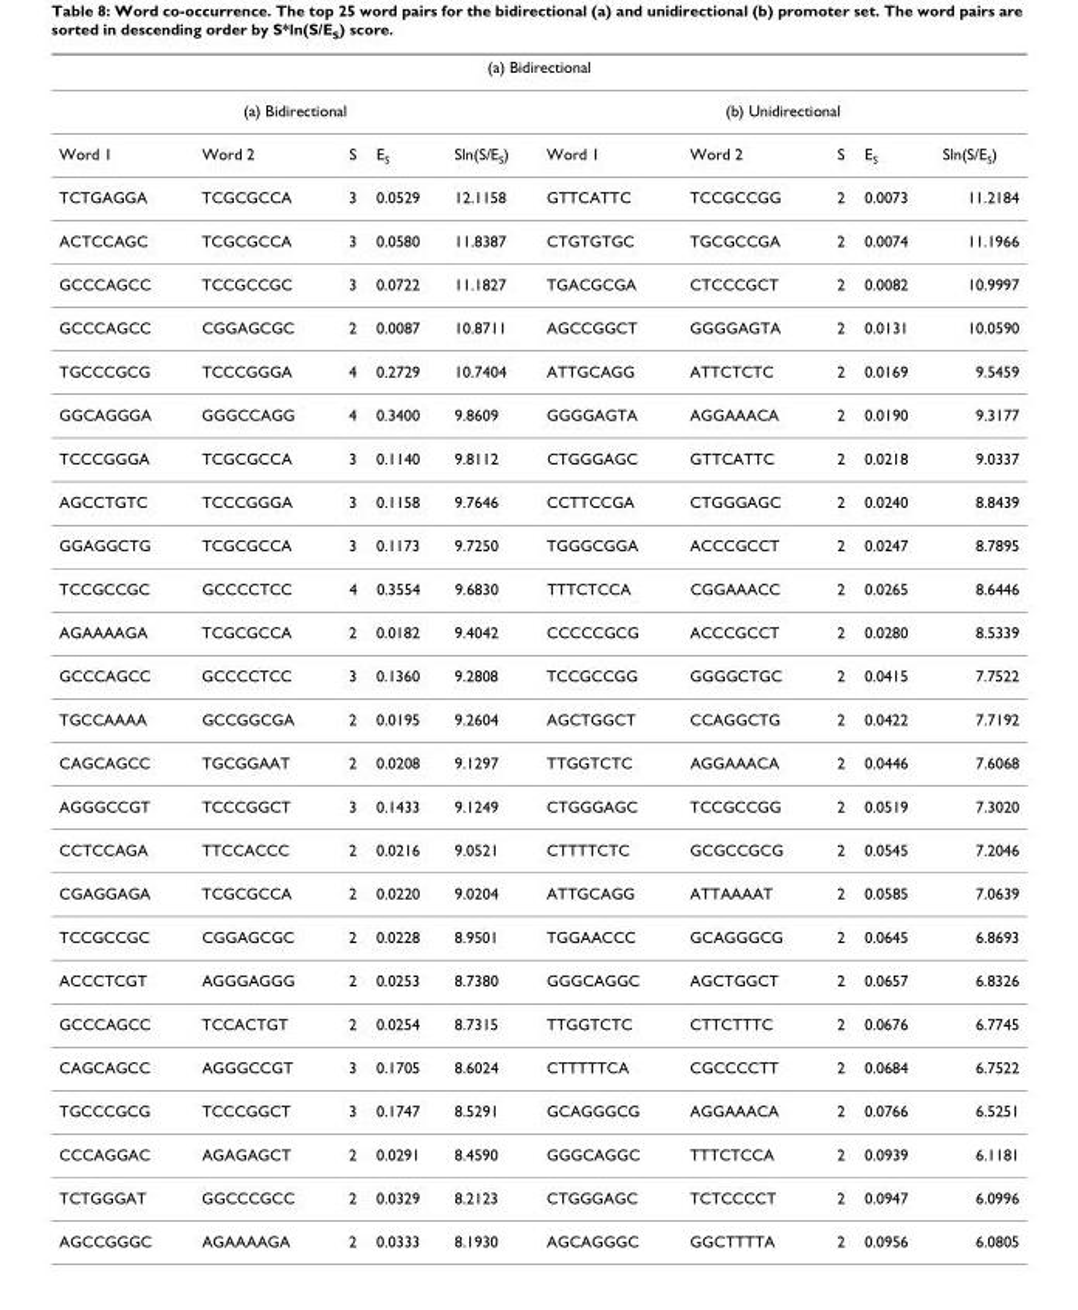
<table><thead><tr><td colspan="10">(a) Bidirectional</td></tr><tr><td colspan="5">(a) Bidirectional</td><td colspan="5">(b) Unidirectional</td></tr><tr><td>Word 1</td><td>Word 2</td><td>S</td><td>E<sub>S</sub></td><td>Sln(S/E<sub>S</sub>)</td><td>Word 1</td><td>Word 2</td><td>S</td><td>E<sub>S</sub></td><td>Sln(S/E<sub>S</sub>)</td></tr></thead><tbody><tr><td>TCTGAGGA</td><td>TCGCGCCA</td><td>3</td><td>0.0529</td><td>12.1158</td><td>GTTCATTC</td><td>TCCGCCGG</td><td>2</td><td>0.0073</td><td>11.2184</td></tr><tr><td>ACTCCAGC</td><td>TCGCGCCA</td><td>3</td><td>0.0580</td><td>11.8387</td><td>CTGTGTGC</td><td>TGCGCCGA</td><td>2</td><td>0.0074</td><td>11.1966</td></tr><tr><td>GCCCAGCC</td><td>TCCGCCGC</td><td>3</td><td>0.0722</td><td>11.1827</td><td>TGACGCGA</td><td>CTCCCGCT</td><td>2</td><td>0.0082</td><td>10.9997</td></tr><tr><td>GCCCAGCC</td><td>CGGAGCGC</td><td>2</td><td>0.0087</td><td>10.8711</td><td>AGCCGGCT</td><td>GGGGAGTA</td><td>2</td><td>0.0131</td><td>10.0590</td></tr><tr><td>TGCCCGCG</td><td>TCCCGGGA</td><td>4</td><td>0.2729</td><td>10.7404</td><td>ATTGCAGG</td><td>ATTCTCTC</td><td>2</td><td>0.0169</td><td>9.5459</td></tr><tr><td>GGCAGGGA</td><td>GGGCCAGG</td><td>4</td><td>0.3400</td><td>9.8609</td><td>GGGGAGTA</td><td>AGGAAACA</td><td>2</td><td>0.0190</td><td>9.3177</td></tr><tr><td>TCCCGGGA</td><td>TCGCGCCA</td><td>3</td><td>0.1140</td><td>9.8112</td><td>CTGGGAGC</td><td>GTTCATTC</td><td>2</td><td>0.0218</td><td>9.0337</td></tr><tr><td>AGCCTGTC</td><td>TCCCGGGA</td><td>3</td><td>0.1158</td><td>9.7646</td><td>CCTTCCGA</td><td>CTGGGAGC</td><td>2</td><td>0.0240</td><td>8.8439</td></tr><tr><td>GGAGGCTG</td><td>TCGCGCCA</td><td>3</td><td>0.1173</td><td>9.7250</td><td>TGGGCGGA</td><td>ACCCGCCT</td><td>2</td><td>0.0247</td><td>8.7895</td></tr><tr><td>TCCGCCGC</td><td>GCCCCTCC</td><td>4</td><td>0.3554</td><td>9.6830</td><td>TTTCTCCA</td><td>CGGAAACC</td><td>2</td><td>0.0265</td><td>8.6446</td></tr><tr><td>AGAAAAGA</td><td>TCGCGCCA</td><td>2</td><td>0.0182</td><td>9.4042</td><td>CCCCCGCG</td><td>ACCCGCCT</td><td>2</td><td>0.0280</td><td>8.5339</td></tr><tr><td>GCCCAGCC</td><td>GCCCCTCC</td><td>3</td><td>0.1360</td><td>9.2808</td><td>TCCGCCGG</td><td>GGGGCTGC</td><td>2</td><td>0.0415</td><td>7.7522</td></tr><tr><td>TGCCAAAA</td><td>GCCGGCGA</td><td>2</td><td>0.0195</td><td>9.2604</td><td>AGCTGGCT</td><td>CCAGGCTG</td><td>2</td><td>0.0422</td><td>7.7192</td></tr><tr><td>CAGCAGCC</td><td>TGCGGAAT</td><td>2</td><td>0.0208</td><td>9.1297</td><td>TTGGTCTC</td><td>AGGAAACA</td><td>2</td><td>0.0446</td><td>7.6068</td></tr><tr><td>AGGGCCGT</td><td>TCCCGGCT</td><td>3</td><td>0.1433</td><td>9.1249</td><td>CTGGGAGC</td><td>TCCGCCGG</td><td>2</td><td>0.0519</td><td>7.3020</td></tr><tr><td>CCTCCAGA</td><td>TTCCACCC</td><td>2</td><td>0.0216</td><td>9.0521</td><td>CTTTTCTC</td><td>GCGCCGCG</td><td>2</td><td>0.0545</td><td>7.2046</td></tr><tr><td>CGAGGAGA</td><td>TCGCGCCA</td><td>2</td><td>0.0220</td><td>9.0204</td><td>ATTGCAGG</td><td>ATTAAAAT</td><td>2</td><td>0.0585</td><td>7.0639</td></tr><tr><td>TCCGCCGC</td><td>CGGAGCGC</td><td>2</td><td>0.0228</td><td>8.9501</td><td>TGGAACCC</td><td>GCAGGGCG</td><td>2</td><td>0.0645</td><td>6.8693</td></tr><tr><td>ACCCTCGT</td><td>AGGGAGGG</td><td>2</td><td>0.0253</td><td>8.7380</td><td>GGGCAGGC</td><td>AGCTGGCT</td><td>2</td><td>0.0657</td><td>6.8326</td></tr><tr><td>GCCCAGCC</td><td>TCCACTGT</td><td>2</td><td>0.0254</td><td>8.7315</td><td>TTGGTCTC</td><td>CTTCTTTC</td><td>2</td><td>0.0676</td><td>6.7745</td></tr><tr><td>CAGCAGCC</td><td>AGGGCCGT</td><td>3</td><td>0.1705</td><td>8.6024</td><td>CTTTTTCA</td><td>CGCCCCTT</td><td>2</td><td>0.0684</td><td>6.7522</td></tr><tr><td>TGCCCGCG</td><td>TCCCGGCT</td><td>3</td><td>0.1747</td><td>8.5291</td><td>GCAGGGCG</td><td>AGGAAACA</td><td>2</td><td>0.0766</td><td>6.5251</td></tr><tr><td>CCCAGGAC</td><td>AGAGAGCT</td><td>2</td><td>0.0291</td><td>8.4590</td><td>GGGCAGGC</td><td>TTTCTCCA</td><td>2</td><td>0.0939</td><td>6.1181</td></tr><tr><td>TCTGGGAT</td><td>GGCCCGCC</td><td>2</td><td>0.0329</td><td>8.2123</td><td>CTGGGAGC</td><td>TCTCCCCT</td><td>2</td><td>0.0947</td><td>6.0996</td></tr><tr><td>AGCCGGGC</td><td>AGAAAAGA</td><td>2</td><td>0.0333</td><td>8.1930</td><td>AGCAGGGC</td><td>GGCTTTTA</td><td>2</td><td>0.0956</td><td>6.0805</td></tr></tbody></table>